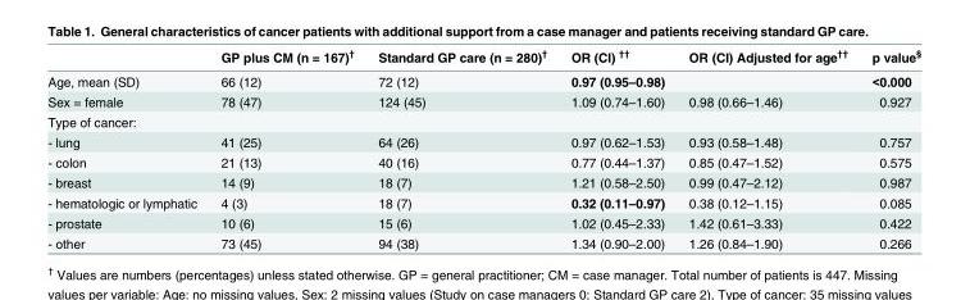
<table><thead><tr><td></td><td>GP plus CM (n = 167)<sup>†</sup></td><td>Standard GP care (n = 280)<sup>†</sup></td><td>OR (CI) <sup>††</sup></td><td>OR (CI) Adjusted for age<sup>††</sup></td><td>p value<sup>§</sup></td></tr></thead><tbody><tr><td>Age, mean (SD)</td><td>66 (12)</td><td>72 (12)</td><td>0.97 (0.95–0.98)</td><td></td><td>&lt;0.000</td></tr><tr><td>Sex = female</td><td>78 (47)</td><td>124 (45)</td><td>1.09 (0.74–1.60)</td><td>0.98 (0.66–1.46)</td><td>0.927</td></tr><tr><td colspan="6">Type of cancer:</td></tr><tr><td>- lung</td><td>41 (25)</td><td>64 (26)</td><td>0.97 (0.62–1.53)</td><td>0.93 (0.58–1.48)</td><td>0.757</td></tr><tr><td>- colon</td><td>21 (13)</td><td>40 (16)</td><td>0.77 (0.44–1.37)</td><td>0.85 (0.47–1.52)</td><td>0.575</td></tr><tr><td>- breast</td><td>14 (9)</td><td>18 (7)</td><td>1.21 (0.58–2.50)</td><td>0.99 (0.47–2.12)</td><td>0.987</td></tr><tr><td>- hematologic or lymphatic</td><td>4 (3)</td><td>18 (7)</td><td>0.32 (0.11–0.97)</td><td>0.38 (0.12–1.15)</td><td>0.085</td></tr><tr><td>- prostate</td><td>10 (6)</td><td>15 (6)</td><td>1.02 (0.45–2.33)</td><td>1.42 (0.61–3.33)</td><td>0.422</td></tr><tr><td>- other</td><td>73 (45)</td><td>94 (38)</td><td>1.34 (0.90–2.00)</td><td>1.26 (0.84–1.90)</td><td>0.266</td></tr></tbody></table>